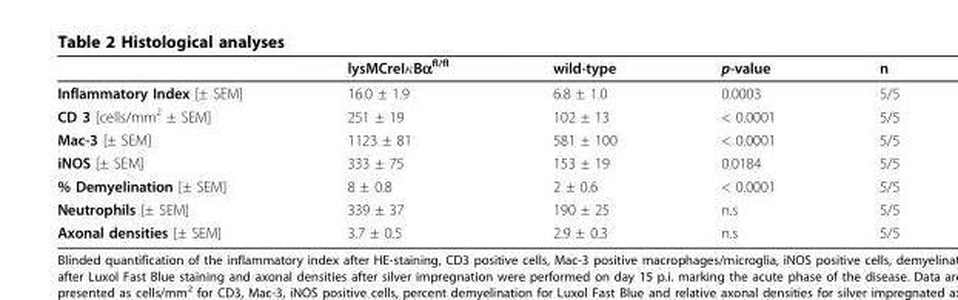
<table><thead><tr><td></td><td>lysMCreIκBα<sup>fl/fl</sup></td><td>wild-type</td><td>p-value</td><td>n</td></tr></thead><tbody><tr><td>Inflammatory Index [± SEM]</td><td>16.0 ± 1.9</td><td>6.8 ± 1.0</td><td>0.0003</td><td>5/5</td></tr><tr><td>CD 3 [cells/mm<sup>2</sup> ± SEM]</td><td>251 ± 19</td><td>102 ± 13</td><td>&lt; 0.0001</td><td>5/5</td></tr><tr><td>Mac-3 [± SEM]</td><td>1123 ± 81</td><td>581 ± 100</td><td>&lt; 0.0001</td><td>5/5</td></tr><tr><td>iNOS [± SEM]</td><td>333 ± 75</td><td>153 ± 19</td><td>0.0184</td><td>5/5</td></tr><tr><td>% Demyelination [± SEM]</td><td>8 ± 0.8</td><td>2 ± 0.6</td><td>&lt; 0.0001</td><td>5/5</td></tr><tr><td>Neutrophils [± SEM]</td><td>339 ± 37</td><td>190 ± 25</td><td>n.s</td><td>5/5</td></tr><tr><td>Axonal densities [± SEM]</td><td>3.7 ± 0.5</td><td>2.9 ± 0.3</td><td>n.s</td><td>5/5</td></tr></tbody></table>